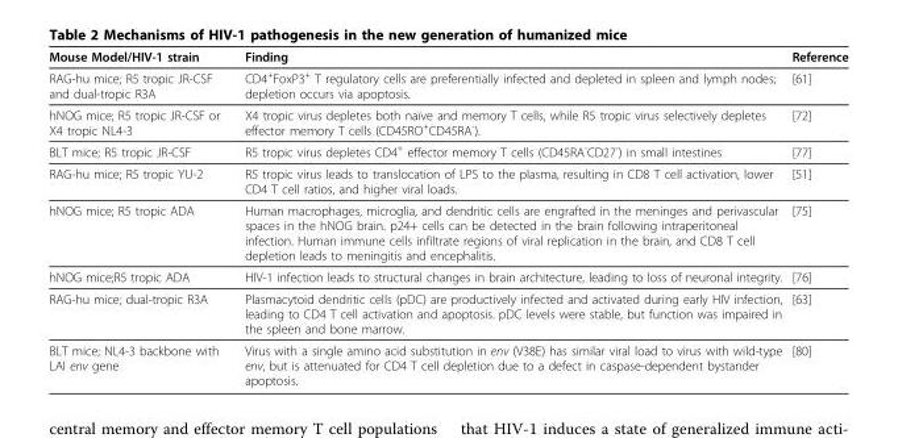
<table><thead><tr><td>Mouse Model/HIV-1 strain</td><td>Finding</td><td>Reference</td></tr></thead><tbody><tr><td>RAG-hu mice; R5 tropic JR-CSF and dual-tropic R3A</td><td>CD4<sup>+</sup>FoxP3<sup>+</sup> T regulatory cells are preferentially infected and depleted in spleen and lymph nodes; depletion occurs via apoptosis.</td><td>[61]</td></tr><tr><td>hNOG mice; R5 tropic JR-CSF or X4 tropic NL4-3</td><td>X4 tropic virus depletes both naïve and memory T cells, while R5 tropic virus selectively depletes effector memory T cells (CD45RO<sup>+</sup>CD45RA<sup>-</sup>).</td><td>[72]</td></tr><tr><td>BLT mice; R5 tropic JR-CSF</td><td>R5 tropic virus depletes CD4<sup>+</sup> effector memory T cells (CD45RA<sup>-</sup>CD27<sup>-</sup>) in small intestines</td><td>[77]</td></tr><tr><td>RAG-hu mice; R5 tropic YU-2</td><td>R5 tropic virus leads to translocation of LPS to the plasma, resulting in CD8 T cell activation, lower CD4 T cell ratios, and higher viral loads.</td><td>[51]</td></tr><tr><td>hNOG mice; R5 tropic ADA</td><td>Human macrophages, microglia, and dendritic cells are engrafted in the meninges and perivascular spaces in the hNOG brain. p24+ cells can be detected in the brain following intraperitoneal infection. Human immune cells infiltrate regions of viral replication in the brain, and CD8 T cell depletion leads to meningitis and encephalitis.</td><td>[75]</td></tr><tr><td>hNOG mice;R5 tropic ADA</td><td>HIV-1 infection leads to structural changes in brain architecture, leading to loss of neuronal integrity.</td><td>[76]</td></tr><tr><td>RAG-hu mice; dual-tropic R3A</td><td>Plasmacytoid dendritic cells (pDC) are productively infected and activated during early HIV infection, leading to CD4 T cell activation and apoptosis. pDC levels were stable, but function was impaired in the spleen and bone marrow.</td><td>[63]</td></tr><tr><td>BLT mice; NL4-3 backbone with LAI env gene</td><td>Virus with a single amino acid substitution in env (V38E) has similar viral load to virus with wild-type env, but is attenuated for CD4 T cell depletion due to a defect in caspase-dependent bystander apoptosis.</td><td>[80]</td></tr></tbody></table>